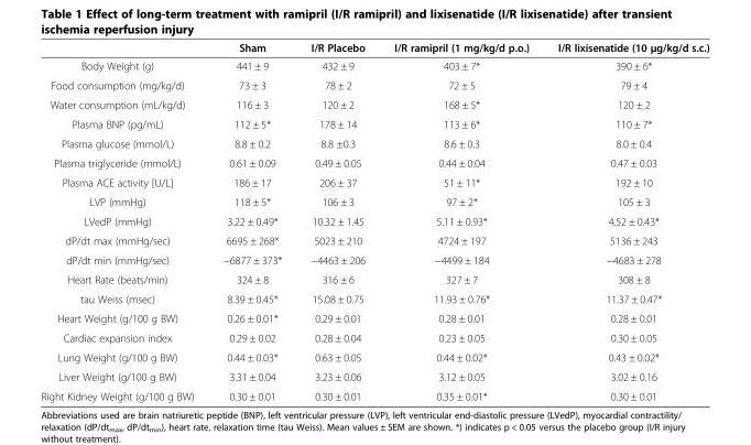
<table><thead><tr><td></td><td>Sham</td><td>I/R Placebo</td><td>I/R ramipril (1 mg/kg/d p.o.)</td><td>I/R lixisenatide (10 μg/kg/d s.c.)</td></tr></thead><tbody><tr><td>Body Weight (g)</td><td>441 ± 9</td><td>432 ± 9</td><td>403 ± 7*</td><td>390 ± 6*</td></tr><tr><td>Food consumption (mg/kg/d)</td><td>73 ± 3</td><td>78 ± 2</td><td>72 ± 5</td><td>79 ± 4</td></tr><tr><td>Water consumption (mL/kg/d)</td><td>116 ± 3</td><td>120 ± 2</td><td>168 ± 5*</td><td>120 ± 2</td></tr><tr><td>Plasma BNP (pg/mL)</td><td>112 ± 5*</td><td>178 ± 14</td><td>113 ± 6*</td><td>110 ± 7*</td></tr><tr><td>Plasma glucose (mmol/L)</td><td>8.8 ± 0.2</td><td>8.8 ±0.3</td><td>8.6 ± 0.3</td><td>8.0 ± 0.4</td></tr><tr><td>Plasma triglyceride (mmol/L)</td><td>0.61 ± 0.09</td><td>0.49 ± 0.05</td><td>0.44 ± 0.04</td><td>0.47 ± 0.03</td></tr><tr><td>Plasma ACE activity [U/L]</td><td>186 ± 17</td><td>206 ± 37</td><td>51 ± 11*</td><td>192 ± 10</td></tr><tr><td>LVP (mmHg)</td><td>118 ± 5*</td><td>106 ± 3</td><td>97 ± 2*</td><td>105 ± 3</td></tr><tr><td>LVedP (mmHg)</td><td>3.22 ± 0.49*</td><td>10.32 ± 1.45</td><td>5.11 ± 0.93*</td><td>4.52 ± 0.43*</td></tr><tr><td>dP/dt max (mmHg/sec)</td><td>6695 ± 268*</td><td>5023 ± 210</td><td>4724 ± 197</td><td>5136 ± 243</td></tr><tr><td>dP/dt min (mmHg/sec)</td><td>−6877 ± 373*</td><td>−4463 ± 206</td><td>−4499 ± 184</td><td>−4683 ± 278</td></tr><tr><td>Heart Rate (beats/min)</td><td>324 ± 8</td><td>316 ± 6</td><td>327 ± 7</td><td>308 ± 8</td></tr><tr><td>tau Weiss (msec)</td><td>8.39 ± 0.45*</td><td>15.08 ± 0.75</td><td>11.93 ± 0.76*</td><td>11.37 ± 0.47*</td></tr><tr><td>Heart Weight (g/100 g BW)</td><td>0.26 ± 0.01*</td><td>0.29 ± 0.01</td><td>0.28 ± 0.01</td><td>0.28 ± 0.01</td></tr><tr><td>Cardiac expansion index</td><td>0.29 ± 0.02</td><td>0.28 ± 0.04</td><td>0.23 ± 0.05</td><td>0.30 ± 0.05</td></tr><tr><td>Lung Weight (g/100 g BW)</td><td>0.44 ± 0.03*</td><td>0.63 ± 0.05</td><td>0.44 ± 0.02*</td><td>0.43 ± 0.02*</td></tr><tr><td>Liver Weight (g/100 g BW)</td><td>3.31 ± 0.04</td><td>3.23 ± 0.06</td><td>3.12 ± 0.05</td><td>3.02 ± 0.16</td></tr><tr><td>Right Kidney Weight (g/100 g BW)</td><td>0.30 ± 0.01</td><td>0.30 ± 0.01</td><td>0.35 ± 0.01*</td><td>0.30 ± 0.01</td></tr></tbody></table>